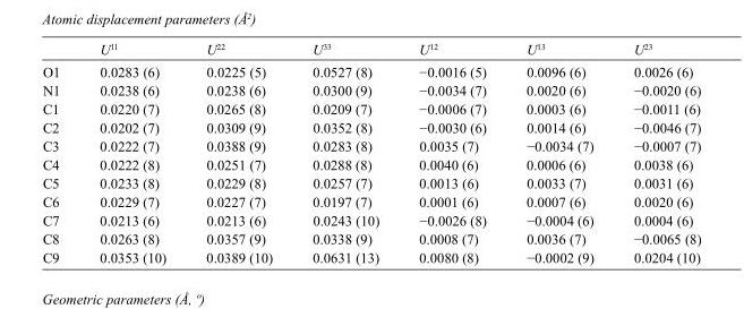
<table><thead><tr><td></td><td>U<sup>11</sup></td><td>U<sup>22</sup></td><td>U<sup>33</sup></td><td>U<sup>12</sup></td><td>U<sup>13</sup></td><td>U<sup>23</sup></td></tr></thead><tbody><tr><td>O1</td><td>0.0283 (6)</td><td>0.0225 (5)</td><td>0.0527 (8)</td><td>−0.0016 (5)</td><td>0.0096 (6)</td><td>0.0026 (6)</td></tr><tr><td>N1</td><td>0.0238 (6)</td><td>0.0238 (6)</td><td>0.0300 (9)</td><td>−0.0034 (7)</td><td>0.0020 (6)</td><td>−0.0020 (6)</td></tr><tr><td>C1</td><td>0.0220 (7)</td><td>0.0265 (8)</td><td>0.0209 (7)</td><td>−0.0006 (7)</td><td>0.0003 (6)</td><td>−0.0011 (6)</td></tr><tr><td>C2</td><td>0.0202 (7)</td><td>0.0309 (9)</td><td>0.0352 (8)</td><td>−0.0030 (6)</td><td>0.0014 (6)</td><td>−0.0046 (7)</td></tr><tr><td>C3</td><td>0.0222 (7)</td><td>0.0388 (9)</td><td>0.0283 (8)</td><td>0.0035 (7)</td><td>−0.0034 (7)</td><td>−0.0007 (7)</td></tr><tr><td>C4</td><td>0.0222 (8)</td><td>0.0251 (7)</td><td>0.0288 (8)</td><td>0.0040 (6)</td><td>0.0006 (6)</td><td>0.0038 (6)</td></tr><tr><td>C5</td><td>0.0233 (8)</td><td>0.0229 (8)</td><td>0.0257 (7)</td><td>0.0013 (6)</td><td>0.0033 (7)</td><td>0.0031 (6)</td></tr><tr><td>C6</td><td>0.0229 (7)</td><td>0.0227 (7)</td><td>0.0197 (7)</td><td>0.0001 (6)</td><td>0.0007 (6)</td><td>0.0020 (6)</td></tr><tr><td>C7</td><td>0.0213 (6)</td><td>0.0213 (6)</td><td>0.0243 (10)</td><td>−0.0026 (8)</td><td>−0.0004 (6)</td><td>0.0004 (6)</td></tr><tr><td>C8</td><td>0.0263 (8)</td><td>0.0357 (9)</td><td>0.0338 (9)</td><td>0.0008 (7)</td><td>0.0036 (7)</td><td>−0.0065 (8)</td></tr><tr><td>C9</td><td>0.0353 (10)</td><td>0.0389 (10)</td><td>0.0631 (13)</td><td>0.0080 (8)</td><td>−0.0002 (9)</td><td>0.0204 (10)</td></tr></tbody></table>